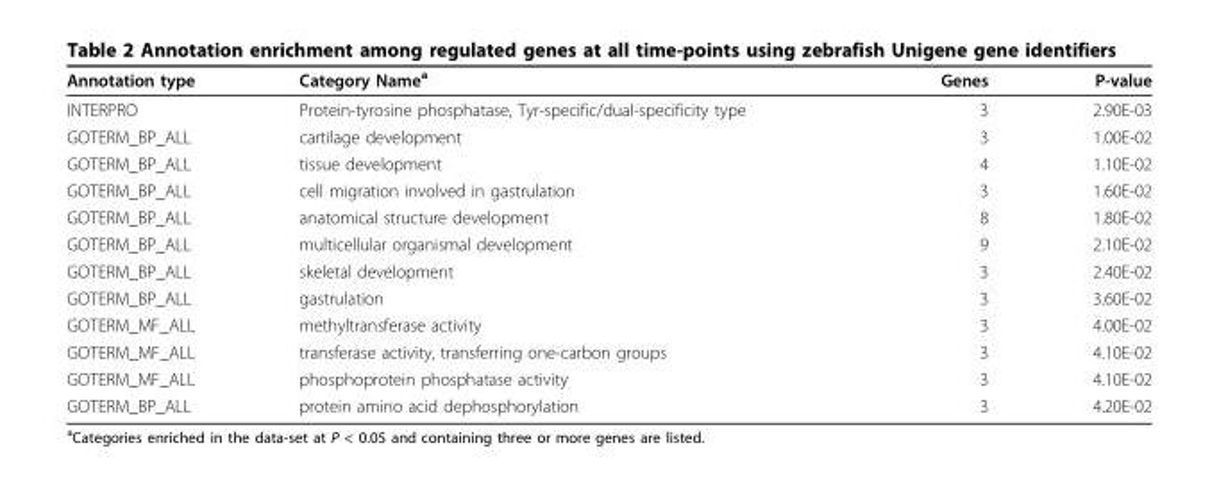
<table><thead><tr><td>Annotation type</td><td>Category Name<sup>a</sup></td><td>Genes</td><td>P-value</td></tr></thead><tbody><tr><td>INTERPRO</td><td>Protein-tyrosine phosphatase, Tyr-specific/dual-specificity type</td><td>3</td><td>2.90E-03</td></tr><tr><td>GOTERM_BP_ALL</td><td>cartilage development</td><td>3</td><td>1.00E-02</td></tr><tr><td>GOTERM_BP_ALL</td><td>tissue development</td><td>4</td><td>1.10E-02</td></tr><tr><td>GOTERM_BP_ALL</td><td>cell migration involved in gastrulation</td><td>3</td><td>1.60E-02</td></tr><tr><td>GOTERM_BP_ALL</td><td>anatomical structure development</td><td>8</td><td>1.80E-02</td></tr><tr><td>GOTERM_BP_ALL</td><td>multicellular organismal development</td><td>9</td><td>2.10E-02</td></tr><tr><td>GOTERM_BP_ALL</td><td>skeletal development</td><td>3</td><td>2.40E-02</td></tr><tr><td>GOTERM_BP_ALL</td><td>gastrulation</td><td>3</td><td>3.60E-02</td></tr><tr><td>GOTERM_MF_ALL</td><td>methyltransferase activity</td><td>3</td><td>4.00E-02</td></tr><tr><td>GOTERM_MF_ALL</td><td>transferase activity, transferring one-carbon groups</td><td>3</td><td>4.10E-02</td></tr><tr><td>GOTERM_MF_ALL</td><td>phosphoprotein phosphatase activity</td><td>3</td><td>4.10E-02</td></tr><tr><td>GOTERM_BP_ALL</td><td>protein amino acid dephosphorylation</td><td>3</td><td>4.20E-02</td></tr></tbody></table>